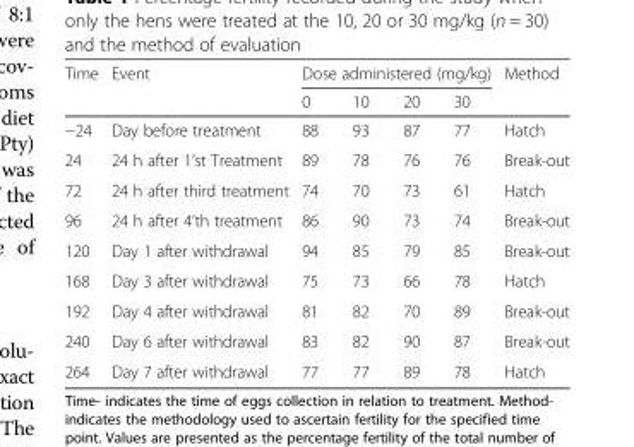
<table><thead><tr><td rowspan="2">Time</td><td rowspan="2">Event</td><td colspan="4">Dose administered (mg/kg)</td><td rowspan="2">Method</td></tr><tr><td>0</td><td>10</td><td>20</td><td>30</td></tr></thead><tbody><tr><td>−24</td><td>Day before treatment</td><td>88</td><td>93</td><td>87</td><td>77</td><td>Hatch</td></tr><tr><td>24</td><td>24 h after 1’st Treatment</td><td>89</td><td>78</td><td>76</td><td>76</td><td>Break-out</td></tr><tr><td>72</td><td>24 h after third treatment</td><td>74</td><td>70</td><td>73</td><td>61</td><td>Hatch</td></tr><tr><td>96</td><td>24 h after 4’th treatment</td><td>86</td><td>90</td><td>73</td><td>74</td><td>Break-out</td></tr><tr><td>120</td><td>Day 1 after withdrawal</td><td>94</td><td>85</td><td>79</td><td>85</td><td>Break-out</td></tr><tr><td>168</td><td>Day 3 after withdrawal</td><td>75</td><td>73</td><td>66</td><td>78</td><td>Hatch</td></tr><tr><td>192</td><td>Day 4 after withdrawal</td><td>81</td><td>82</td><td>70</td><td>89</td><td>Break-out</td></tr><tr><td>240</td><td>Day 6 after withdrawal</td><td>83</td><td>82</td><td>90</td><td>87</td><td>Break-out</td></tr><tr><td>264</td><td>Day 7 after withdrawal</td><td>77</td><td>77</td><td>89</td><td>78</td><td>Hatch</td></tr></tbody></table>